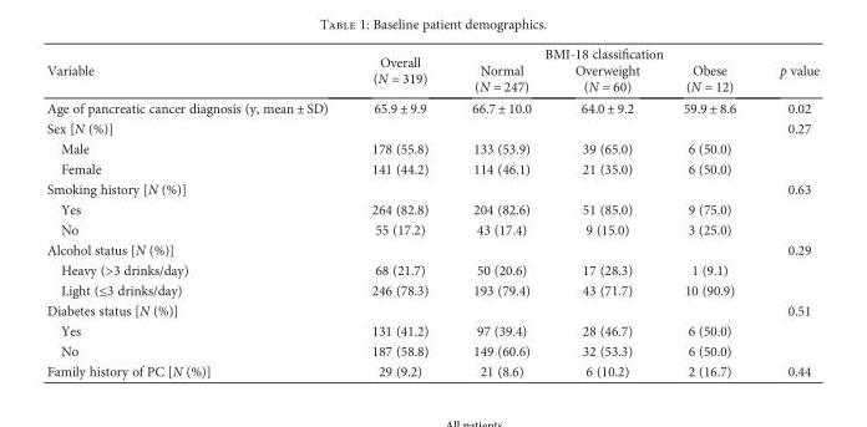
<table><thead><tr><td rowspan="2">Variable</td><td rowspan="2">Overall (N = 319)</td><td colspan="3">BMI-18 classification</td><td rowspan="2">p value</td></tr><tr><td>Normal (N = 247)</td><td>Overweight (N = 60)</td><td>Obese (N = 12)</td></tr></thead><tbody><tr><td>Age of pancreatic cancer diagnosis (y, mean ± SD)</td><td>65.9 ± 9.9</td><td>66.7 ± 10.0</td><td>64.0 ± 9.2</td><td>59.9 ± 8.6</td><td>0.02</td></tr><tr><td>Sex [N (%)]</td><td></td><td></td><td></td><td></td><td>0.27</td></tr><tr><td>Male</td><td>178 (55.8)</td><td>133 (53.9)</td><td>39 (65.0)</td><td>6 (50.0)</td><td></td></tr><tr><td>Female</td><td>141 (44.2)</td><td>114 (46.1)</td><td>21 (35.0)</td><td>6 (50.0)</td><td></td></tr><tr><td>Smoking history [N (%)]</td><td></td><td></td><td></td><td></td><td>0.63</td></tr><tr><td>Yes</td><td>264 (82.8)</td><td>204 (82.6)</td><td>51 (85.0)</td><td>9 (75.0)</td><td></td></tr><tr><td>No</td><td>55 (17.2)</td><td>43 (17.4)</td><td>9 (15.0)</td><td>3 (25.0)</td><td></td></tr><tr><td>Alcohol status [N (%)]</td><td></td><td></td><td></td><td></td><td>0.29</td></tr><tr><td>Heavy (&gt;3 drinks/day)</td><td>68 (21.7)</td><td>50 (20.6)</td><td>17 (28.3)</td><td>1 (9.1)</td><td></td></tr><tr><td>Light (≤3 drinks/day)</td><td>246 (78.3)</td><td>193 (79.4)</td><td>43 (71.7)</td><td>10 (90.9)</td><td></td></tr><tr><td>Diabetes status [N (%)]</td><td></td><td></td><td></td><td></td><td>0.51</td></tr><tr><td>Yes</td><td>131 (41.2)</td><td>97 (39.4)</td><td>28 (46.7)</td><td>6 (50.0)</td><td></td></tr><tr><td>No</td><td>187 (58.8)</td><td>149 (60.6)</td><td>32 (53.3)</td><td>6 (50.0)</td><td></td></tr><tr><td>Family history of PC [N (%)]</td><td>29 (9.2)</td><td>21 (8.6)</td><td>6 (10.2)</td><td>2 (16.7)</td><td>0.44</td></tr></tbody></table>